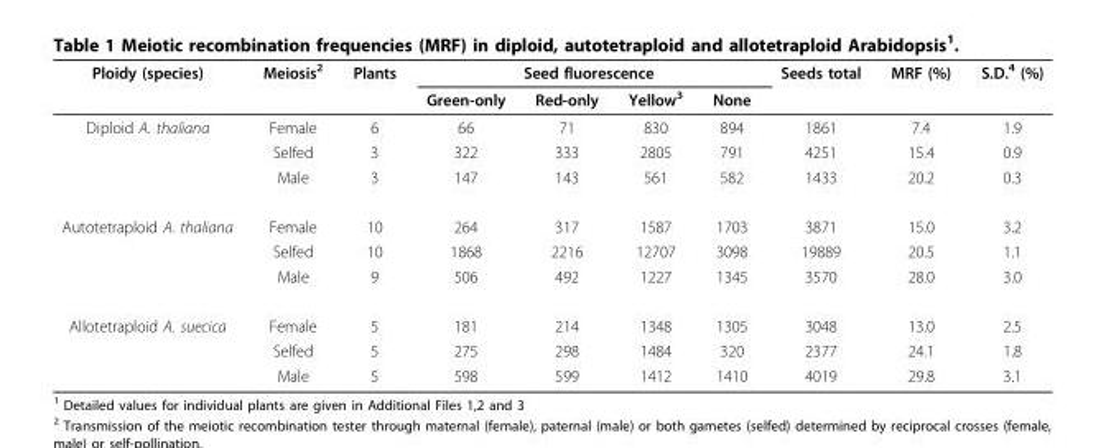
<table><thead><tr><td rowspan="2">Ploidy (species)</td><td rowspan="2">Meiosis<sup>2</sup></td><td rowspan="2">Plants</td><td colspan="4">Seed fluorescence</td><td rowspan="2">Seeds total</td><td rowspan="2">MRF (%)</td><td rowspan="2">S.D.<sup>4</sup> (%)</td></tr><tr><td>Green-only</td><td>Red-only</td><td>Yellow<sup>3</sup></td><td>None</td></tr></thead><tbody><tr><td rowspan="3">Diploid A. thaliana</td><td>Female</td><td>6</td><td>66</td><td>71</td><td>830</td><td>894</td><td>1861</td><td>7.4</td><td>1.9</td></tr><tr><td>Selfed</td><td>3</td><td>322</td><td>333</td><td>2805</td><td>791</td><td>4251</td><td>15.4</td><td>0.9</td></tr><tr><td>Male</td><td>3</td><td>147</td><td>143</td><td>561</td><td>582</td><td>1433</td><td>20.2</td><td>0.3</td></tr><tr><td rowspan="3">Autotetraploid A. thaliana</td><td>Female</td><td>10</td><td>264</td><td>317</td><td>1587</td><td>1703</td><td>3871</td><td>15.0</td><td>3.2</td></tr><tr><td>Selfed</td><td>10</td><td>1868</td><td>2216</td><td>12707</td><td>3098</td><td>19889</td><td>20.5</td><td>1.1</td></tr><tr><td>Male</td><td>9</td><td>506</td><td>492</td><td>1227</td><td>1345</td><td>3570</td><td>28.0</td><td>3.0</td></tr><tr><td rowspan="3">Allotetraploid A. suecica</td><td>Female</td><td>5</td><td>181</td><td>214</td><td>1348</td><td>1305</td><td>3048</td><td>13.0</td><td>2.5</td></tr><tr><td>Selfed</td><td>5</td><td>275</td><td>298</td><td>1484</td><td>320</td><td>2377</td><td>24.1</td><td>1.8</td></tr><tr><td>Male</td><td>5</td><td>598</td><td>599</td><td>1412</td><td>1410</td><td>4019</td><td>29.8</td><td>3.1</td></tr></tbody></table>